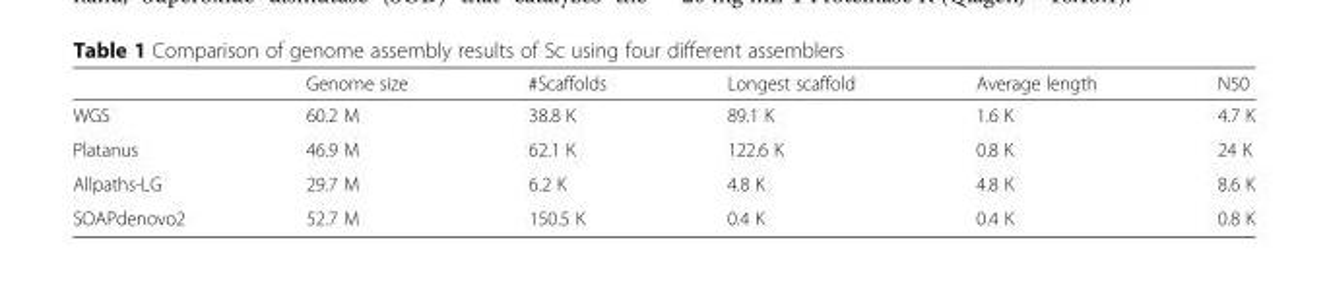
<table><thead><tr><td></td><td>Genome size</td><td>#Scaffolds</td><td>Longest scaffold</td><td>Average length</td><td>N50</td></tr></thead><tbody><tr><td>WGS</td><td>60.2 M</td><td>38.8 K</td><td>89.1 K</td><td>1.6 K</td><td>4.7 K</td></tr><tr><td>Platanus</td><td>46.9 M</td><td>62.1 K</td><td>122.6 K</td><td>0.8 K</td><td>24 K</td></tr><tr><td>Allpaths-LG</td><td>29.7 M</td><td>6.2 K</td><td>4.8 K</td><td>4.8 K</td><td>8.6 K</td></tr><tr><td>SOAPdenovo2</td><td>52.7 M</td><td>150.5 K</td><td>0.4 K</td><td>0.4 K</td><td>0.8 K</td></tr></tbody></table>